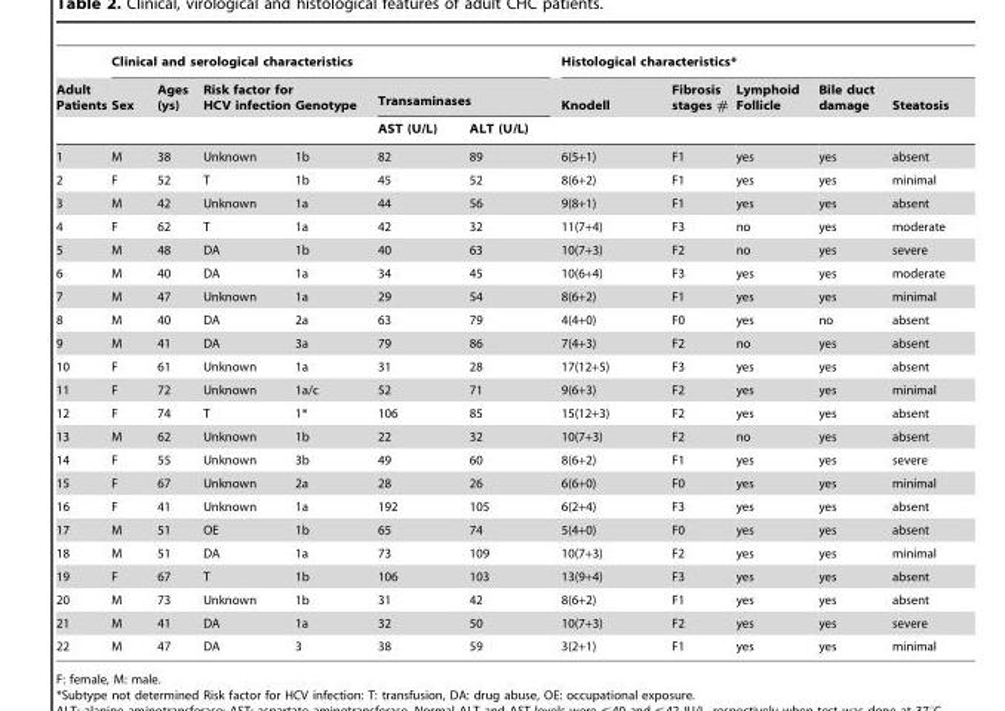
<table><thead><tr><td rowspan="3">Adult Patients</td><td colspan="6">Clinical and serological characteristics</td><td colspan="5">Histological characteristics*</td></tr><tr><td rowspan="2">Sex</td><td rowspan="2">Ages (ys)</td><td rowspan="2">Risk factor for HCV infection</td><td rowspan="2">Genotype</td><td colspan="2">Transaminases</td><td rowspan="2">Knodell</td><td rowspan="2">Fibrosis stages #</td><td rowspan="2">Lymphoid Follicle</td><td rowspan="2">Bile duct damage</td><td rowspan="2">Steatosis</td></tr><tr><td>AST (U/L)</td><td>ALT (U/L)</td></tr></thead><tbody><tr><td>1</td><td>M</td><td>38</td><td>Unknown</td><td>1b</td><td>82</td><td>89</td><td>6(5+1)</td><td>F1</td><td>yes</td><td>yes</td><td>absent</td></tr><tr><td>2</td><td>F</td><td>52</td><td>T</td><td>1b</td><td>45</td><td>52</td><td>8(6+2)</td><td>F1</td><td>yes</td><td>yes</td><td>minimal</td></tr><tr><td>3</td><td>M</td><td>42</td><td>Unknown</td><td>1a</td><td>44</td><td>56</td><td>9(8+1)</td><td>F1</td><td>yes</td><td>yes</td><td>absent</td></tr><tr><td>4</td><td>F</td><td>62</td><td>T</td><td>1a</td><td>42</td><td>32</td><td>11(7+4)</td><td>F3</td><td>no</td><td>yes</td><td>moderate</td></tr><tr><td>5</td><td>M</td><td>48</td><td>DA</td><td>1b</td><td>40</td><td>63</td><td>10(7+3)</td><td>F2</td><td>no</td><td>yes</td><td>severe</td></tr><tr><td>6</td><td>M</td><td>40</td><td>DA</td><td>1a</td><td>34</td><td>45</td><td>10(6+4)</td><td>F3</td><td>yes</td><td>yes</td><td>moderate</td></tr><tr><td>7</td><td>M</td><td>47</td><td>Unknown</td><td>1a</td><td>29</td><td>54</td><td>8(6+2)</td><td>F1</td><td>yes</td><td>yes</td><td>minimal</td></tr><tr><td>8</td><td>M</td><td>40</td><td>DA</td><td>2a</td><td>63</td><td>79</td><td>4(4+0)</td><td>F0</td><td>yes</td><td>no</td><td>absent</td></tr><tr><td>9</td><td>M</td><td>41</td><td>DA</td><td>3a</td><td>79</td><td>86</td><td>7(4+3)</td><td>F2</td><td>no</td><td>yes</td><td>absent</td></tr><tr><td>10</td><td>F</td><td>61</td><td>Unknown</td><td>1a</td><td>31</td><td>28</td><td>17(12+5)</td><td>F3</td><td>yes</td><td>yes</td><td>absent</td></tr><tr><td>11</td><td>F</td><td>72</td><td>Unknown</td><td>1a/c</td><td>52</td><td>71</td><td>9(6+3)</td><td>F2</td><td>yes</td><td>yes</td><td>minimal</td></tr><tr><td>12</td><td>F</td><td>74</td><td>T</td><td>1*</td><td>106</td><td>85</td><td>15(12+3)</td><td>F2</td><td>yes</td><td>yes</td><td>absent</td></tr><tr><td>13</td><td>M</td><td>62</td><td>Unknown</td><td>1b</td><td>22</td><td>32</td><td>10(7+3)</td><td>F2</td><td>no</td><td>yes</td><td>absent</td></tr><tr><td>14</td><td>F</td><td>55</td><td>Unknown</td><td>3b</td><td>49</td><td>60</td><td>8(6+2)</td><td>F1</td><td>yes</td><td>yes</td><td>severe</td></tr><tr><td>15</td><td>F</td><td>67</td><td>Unknown</td><td>2a</td><td>28</td><td>26</td><td>6(6+0)</td><td>F0</td><td>yes</td><td>yes</td><td>minimal</td></tr><tr><td>16</td><td>F</td><td>41</td><td>Unknown</td><td>1a</td><td>192</td><td>105</td><td>6(2+4)</td><td>F3</td><td>yes</td><td>yes</td><td>absent</td></tr><tr><td>17</td><td>M</td><td>51</td><td>OE</td><td>1b</td><td>65</td><td>74</td><td>5(4+0)</td><td>F0</td><td>yes</td><td>yes</td><td>absent</td></tr><tr><td>18</td><td>M</td><td>51</td><td>DA</td><td>1a</td><td>73</td><td>109</td><td>10(7+3)</td><td>F2</td><td>yes</td><td>yes</td><td>minimal</td></tr><tr><td>19</td><td>F</td><td>67</td><td>T</td><td>1b</td><td>106</td><td>103</td><td>13(9+4)</td><td>F3</td><td>yes</td><td>yes</td><td>absent</td></tr><tr><td>20</td><td>M</td><td>73</td><td>Unknown</td><td>1b</td><td>31</td><td>42</td><td>8(6+2)</td><td>F1</td><td>yes</td><td>yes</td><td>absent</td></tr><tr><td>21</td><td>M</td><td>41</td><td>DA</td><td>1a</td><td>32</td><td>50</td><td>10(7+3)</td><td>F2</td><td>yes</td><td>yes</td><td>severe</td></tr><tr><td>22</td><td>M</td><td>47</td><td>DA</td><td>3</td><td>38</td><td>59</td><td>3(2+1)</td><td>F1</td><td>yes</td><td>yes</td><td>minimal</td></tr></tbody></table>